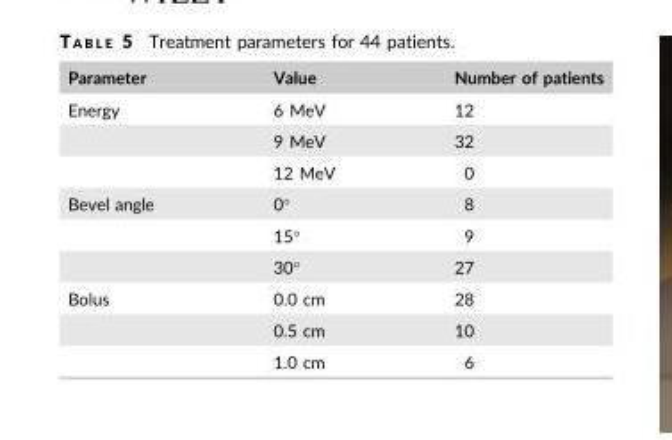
<table><thead><tr><td>Parameter</td><td>Value</td><td>Number of patients</td></tr></thead><tbody><tr><td rowspan="3">Energy</td><td>6 MeV</td><td>12</td></tr><tr><td>9 MeV</td><td>32</td></tr><tr><td>12 MeV</td><td>0</td></tr><tr><td rowspan="3">Bevel angle</td><td>0°</td><td>8</td></tr><tr><td>15°</td><td>9</td></tr><tr><td>30°</td><td>27</td></tr><tr><td rowspan="3">Bolus</td><td>0.0 cm</td><td>28</td></tr><tr><td>0.5 cm</td><td>10</td></tr><tr><td>1.0 cm</td><td>6</td></tr></tbody></table>